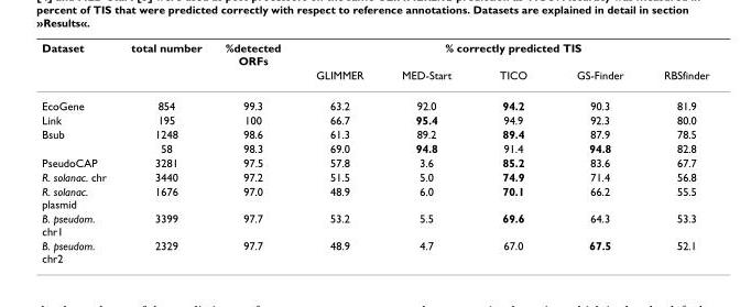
<table><thead><tr><td rowspan="2">Dataset</td><td rowspan="2">total number</td><td rowspan="2">%detected ORFs</td><td colspan="5">% correctly predicted TIS</td></tr><tr><td>GLIMMER</td><td>MED-Start</td><td>TICO</td><td>GS-Finder</td><td>RBSfinder</td></tr></thead><tbody><tr><td>EcoGene</td><td>854</td><td>99.3</td><td>63.2</td><td>92.0</td><td>94.2</td><td>90.3</td><td>81.9</td></tr><tr><td>Link</td><td>195</td><td>100</td><td>66.7</td><td>95.4</td><td>94.9</td><td>92.3</td><td>80.0</td></tr><tr><td rowspan="2">Bsub</td><td>1248</td><td>98.6</td><td>61.3</td><td>89.2</td><td>89.4</td><td>87.9</td><td>78.5</td></tr><tr><td>58</td><td>98.3</td><td>69.0</td><td>94.8</td><td>91.4</td><td>94.8</td><td>82.8</td></tr><tr><td>PseudoCAP</td><td>3281</td><td>97.5</td><td>57.8</td><td>3.6</td><td>85.2</td><td>83.6</td><td>67.7</td></tr><tr><td>R. solanac. chr</td><td>3440</td><td>97.2</td><td>51.5</td><td>5.0</td><td>74.9</td><td>71.4</td><td>56.8</td></tr><tr><td>R. solanac. plasmid</td><td>1676</td><td>97.0</td><td>48.9</td><td>6.0</td><td>70.1</td><td>66.2</td><td>55.5</td></tr><tr><td>B. pseudom. chr1</td><td>3399</td><td>97.7</td><td>53.2</td><td>5.5</td><td>69.6</td><td>64.3</td><td>53.3</td></tr><tr><td>B. pseudom. chr2</td><td>2329</td><td>97.7</td><td>48.9</td><td>4.7</td><td>67.0</td><td>67.5</td><td>52.1</td></tr></tbody></table>